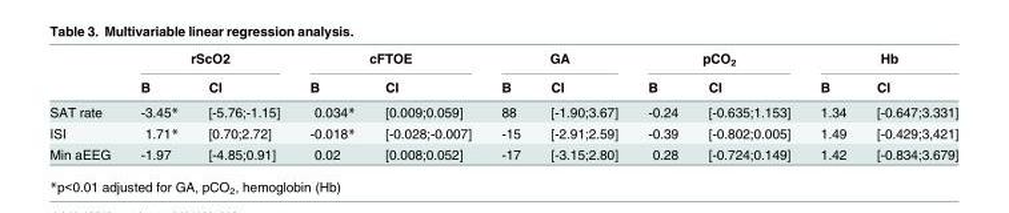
<table><thead><tr><td rowspan="2"></td><td colspan="2">rScO2</td><td colspan="2">cFTOE</td><td colspan="2">GA</td><td colspan="2">pCO<sub>2</sub></td><td colspan="2">Hb</td></tr><tr><td>B</td><td>CI</td><td>B</td><td>CI</td><td>B</td><td>CI</td><td>B</td><td>CI</td><td>B</td><td>CI</td></tr></thead><tbody><tr><td>SAT rate</td><td>-3.45*</td><td>[-5.76;-1.15]</td><td>0.034*</td><td>[0.009;0.059]</td><td>88</td><td>[-1.90;3.67]</td><td>-0.24</td><td>[-0.635;1.153]</td><td>1.34</td><td>[-0.647;3.331]</td></tr><tr><td>ISI</td><td>1.71*</td><td>[0.70;2.72]</td><td>-0.018*</td><td>[-0.028;-0.007]</td><td>-15</td><td>[-2.91;2.59]</td><td>-0.39</td><td>[-0.802;0.005]</td><td>1.49</td><td>[-0.429;3,421]</td></tr><tr><td>Min aEEG</td><td>-1.97</td><td>[-4.85;0.91]</td><td>0.02</td><td>[0.008;0.052]</td><td>-17</td><td>[-3.15;2.80]</td><td>0.28</td><td>[-0.724;0.149]</td><td>1.42</td><td>[-0.834;3.679]</td></tr></tbody></table>